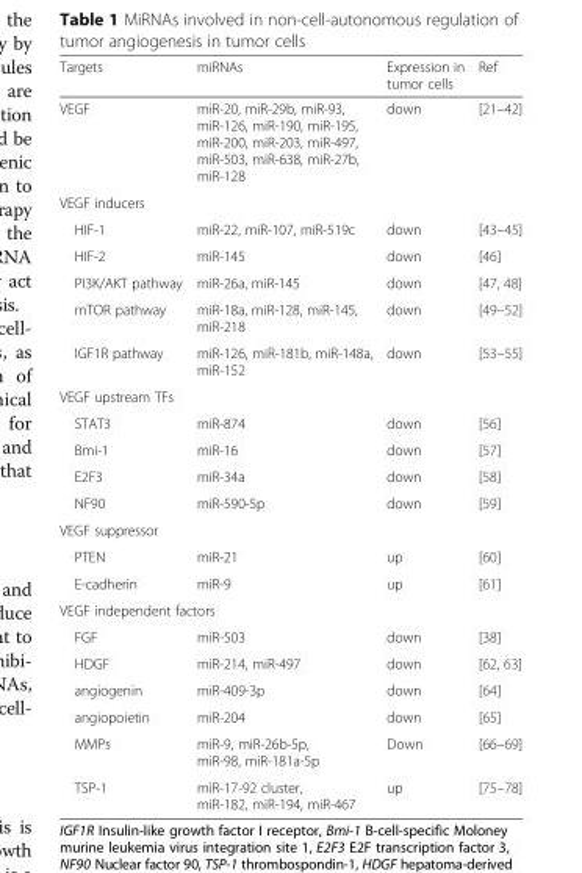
<table><thead><tr><td>Targets</td><td>miRNAs</td><td>Expression in tumor cells</td><td>Ref</td></tr></thead><tbody><tr><td>VEGF</td><td>miR-20, miR-29b, miR-93, miR-126, miR-190, miR-195, miR-200, miR-203, miR-497, miR-503, miR-638, miR-27b, miR-128</td><td>down</td><td>[21–42]</td></tr><tr><td colspan="4">VEGF inducers</td></tr><tr><td>HIF-1</td><td>miR-22, miR-107, miR-519c</td><td>down</td><td>[43–45]</td></tr><tr><td>HIF-2</td><td>miR-145</td><td>down</td><td>[46]</td></tr><tr><td>PI3K/AKT pathway</td><td>miR-26a, miR-145</td><td>down</td><td>[47, 48]</td></tr><tr><td>mTOR pathway</td><td>miR-18a, miR-128, miR-145, miR-218</td><td>down</td><td>[49–52]</td></tr><tr><td>IGF1R pathway</td><td>miR-126, miR-181b, miR-148a, miR-152</td><td>down</td><td>[53–55]</td></tr><tr><td colspan="4">VEGF upstream TFs</td></tr><tr><td>STAT3</td><td>miR-874</td><td>down</td><td>[56]</td></tr><tr><td>Bmi-1</td><td>miR-16</td><td>down</td><td>[57]</td></tr><tr><td>E2F3</td><td>miR-34a</td><td>down</td><td>[58]</td></tr><tr><td>NF90</td><td>miR-590-5p</td><td>down</td><td>[59]</td></tr><tr><td colspan="4">VEGF suppressor</td></tr><tr><td>PTEN</td><td>miR-21</td><td>up</td><td>[60]</td></tr><tr><td>E-cadherin</td><td>miR-9</td><td>up</td><td>[61]</td></tr><tr><td colspan="4">VEGF independent factors</td></tr><tr><td>FGF</td><td>miR-503</td><td>down</td><td>[38]</td></tr><tr><td>HDGF</td><td>miR-214, miR-497</td><td>down</td><td>[62, 63]</td></tr><tr><td>angiogenin</td><td>miR-409-3p</td><td>down</td><td>[64]</td></tr><tr><td>angiopoietin</td><td>miR-204</td><td>down</td><td>[65]</td></tr><tr><td>MMPs</td><td>miR-9, miR-26b-5p, miR-98, miR-181a-5p</td><td>Down</td><td>[66–69]</td></tr><tr><td>TSP-1</td><td>miR-17-92 cluster, miR-182, miR-194, miR-467</td><td>up</td><td>[75–78]</td></tr></tbody></table>